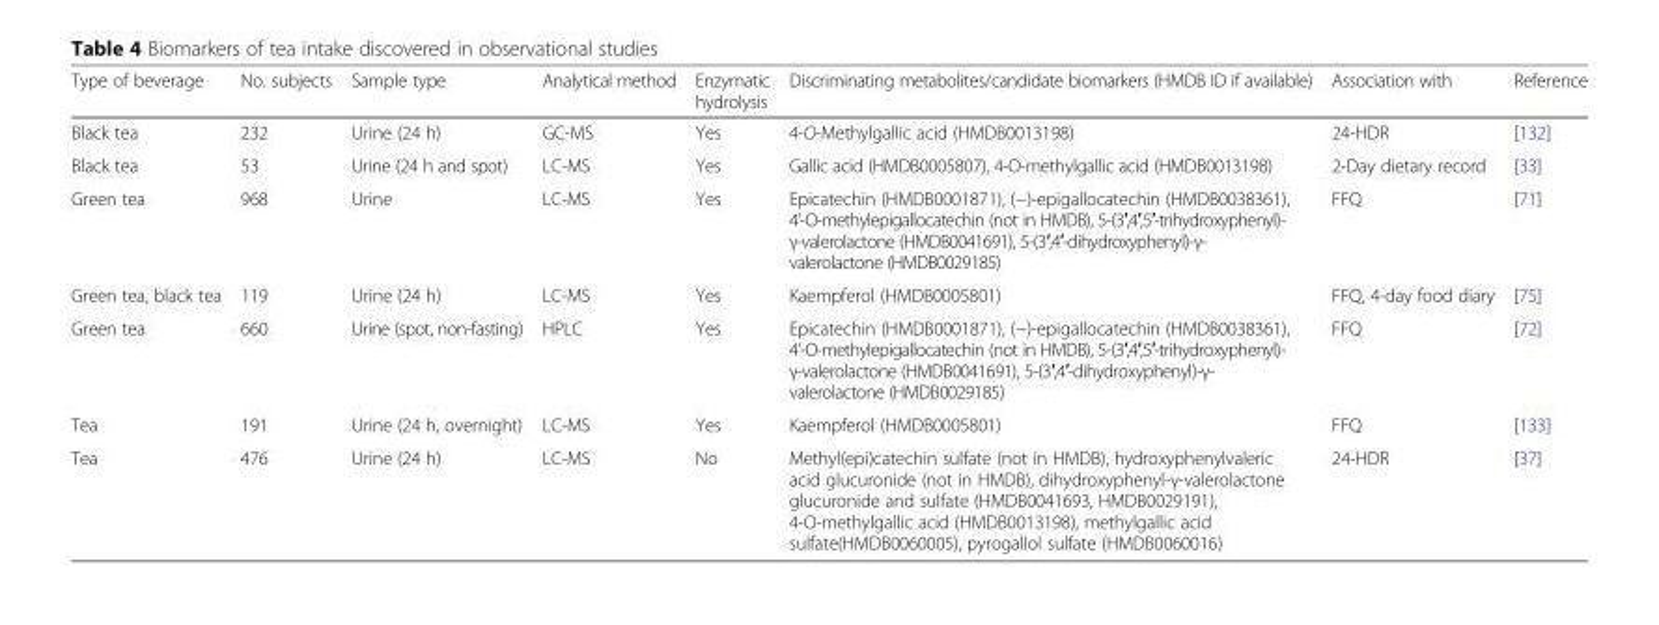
<table><thead><tr><td>Type of beverage</td><td>No. subjects</td><td>Sample type</td><td>Analytical method</td><td>Enzymatic hydrolysis</td><td>Discriminating metabolites/candidate biomarkers (HMDB ID if available)</td><td>Association with</td><td>Reference</td></tr></thead><tbody><tr><td>Black tea</td><td>232</td><td>Urine (24 h)</td><td>GC-MS</td><td>Yes</td><td>4-O-Methylgallic acid (HMDB0013198)</td><td>24-HDR</td><td>[132]</td></tr><tr><td>Black tea</td><td>53</td><td>Urine (24 h and spot)</td><td>LC-MS</td><td>Yes</td><td>Gallic acid (HMDB0005807), 4-O-methylgallic acid (HMDB0013198)</td><td>2-Day dietary record</td><td>[33]</td></tr><tr><td>Green tea</td><td>968</td><td>Urine</td><td>LC-MS</td><td>Yes</td><td>Epicatechin (HMDB0001871), (−)-epigallocatechin (HMDB0038361), 4’-O-methylepigallocatechin (not in HMDB), 5-(3′,4′,5′-trihydroxyphenyl)- γ-valerolactone (HMDB0041691), 5-(3′,4′-dihydroxyphenyl)-γ- valerolactone (HMDB0029185)</td><td>FFQ</td><td>[71]</td></tr><tr><td>Green tea, black tea</td><td>119</td><td>Urine (24 h)</td><td>LC-MS</td><td>Yes</td><td>Kaempferol (HMDB0005801)</td><td>FFQ, 4-day food diary</td><td>[75]</td></tr><tr><td>Green tea</td><td>660</td><td>Urine (spot, non-fasting)</td><td>HPLC</td><td>Yes</td><td>Epicatechin (HMDB0001871), (−)-epigallocatechin (HMDB0038361), 4’-O-methylepigallocatechin (not in HMDB), 5-(3′,4′,5′-trihydroxyphenyl)- γ-valerolactone (HMDB0041691), 5-(3′,4′-dihydroxyphenyl)-γ- valerolactone (HMDB0029185)</td><td>FFQ</td><td>[72]</td></tr><tr><td>Tea</td><td>191</td><td>Urine (24 h, overnight)</td><td>LC-MS</td><td>Yes</td><td>Kaempferol (HMDB0005801)</td><td>FFQ</td><td>[133]</td></tr><tr><td>Tea</td><td>476</td><td>Urine (24 h)</td><td>LC-MS</td><td>No</td><td>Methyl(epi)catechin sulfate (not in HMDB), hydroxyphenylvaleric acid glucuronide (not in HMDB), dihydroxyphenyl-γ-valerolactone glucuronide and sulfate (HMDB0041693, HMDB0029191), 4-O-methylgallic acid (HMDB0013198), methylgallic acid sulfate(HMDB0060005), pyrogallol sulfate (HMDB0060016)</td><td>24-HDR</td><td>[37]</td></tr></tbody></table>